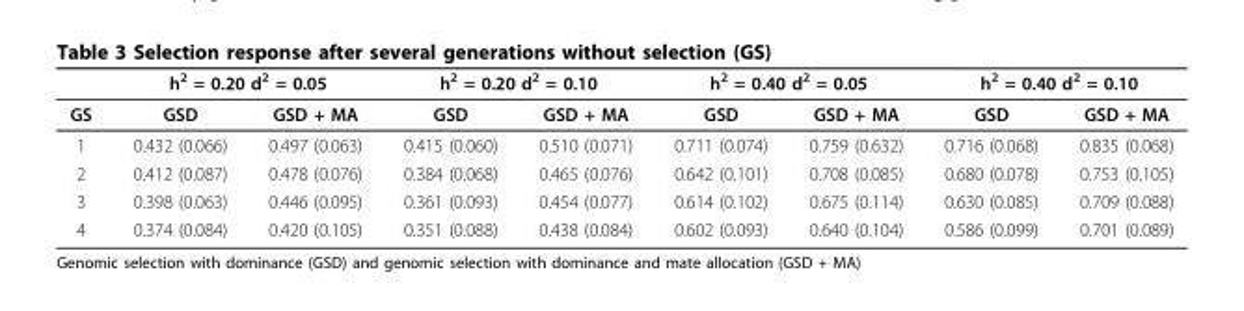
<table><thead><tr><td rowspan="2">GS</td><td colspan="2">h<sup>2</sup> = 0.20 d<sup>2</sup> = 0.05</td><td colspan="2">h<sup>2</sup> = 0.20 d<sup>2</sup> = 0.10</td><td colspan="2">h<sup>2</sup> = 0.40 d<sup>2</sup> = 0.05</td><td colspan="2">h<sup>2</sup> = 0.40 d<sup>2</sup> = 0.10</td></tr><tr><td>GSD</td><td>GSD + MA</td><td>GSD</td><td>GSD + MA</td><td>GSD</td><td>GSD + MA</td><td>GSD</td><td>GSD + MA</td></tr></thead><tbody><tr><td>1</td><td>0.432 (0.066)</td><td>0.497 (0.063)</td><td>0.415 (0.060)</td><td>0.510 (0.071)</td><td>0.711 (0.074)</td><td>0.759 (0.632)</td><td>0.716 (0.068)</td><td>0.835 (0.068)</td></tr><tr><td>2</td><td>0.412 (0.087)</td><td>0.478 (0.076)</td><td>0.384 (0.068)</td><td>0.465 (0.076)</td><td>0.642 (0.101)</td><td>0.708 (0.085)</td><td>0.680 (0.078)</td><td>0.753 (0.105)</td></tr><tr><td>3</td><td>0.398 (0.063)</td><td>0.446 (0.095)</td><td>0.361 (0.093)</td><td>0.454 (0.077)</td><td>0.614 (0.102)</td><td>0.675 (0.114)</td><td>0.630 (0.085)</td><td>0.709 (0.088)</td></tr><tr><td>4</td><td>0.374 (0.084)</td><td>0.420 (0.105)</td><td>0.351 (0.088)</td><td>0.438 (0.084)</td><td>0.602 (0.093)</td><td>0.640 (0.104)</td><td>0.586 (0.099)</td><td>0.701 (0.089)</td></tr></tbody></table>